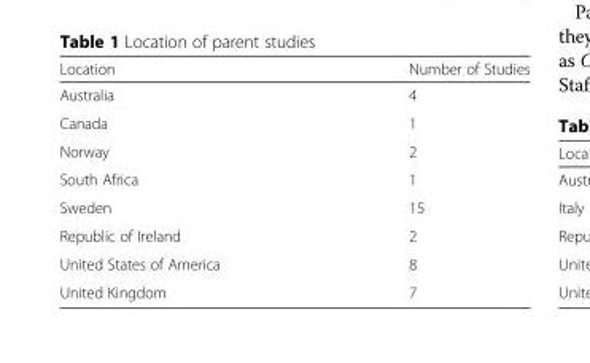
<table><thead><tr><td>Location</td><td>Number of Studies</td></tr></thead><tbody><tr><td>Australia</td><td>4</td></tr><tr><td>Canada</td><td>1</td></tr><tr><td>Norway</td><td>2</td></tr><tr><td>South Africa</td><td>1</td></tr><tr><td>Sweden</td><td>15</td></tr><tr><td>Republic of Ireland</td><td>2</td></tr><tr><td>United States of America</td><td>8</td></tr><tr><td>United Kingdom</td><td>7</td></tr></tbody></table>